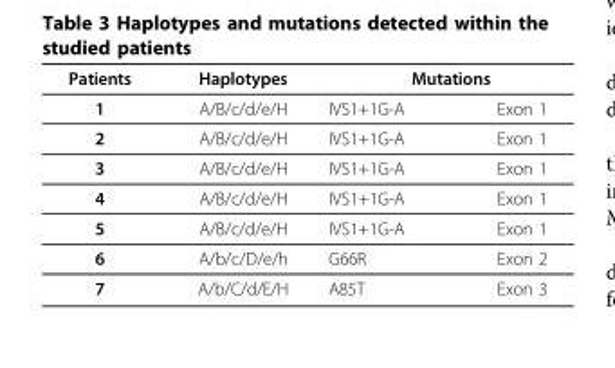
<table><thead><tr><td rowspan="2">Patients 1</td><td rowspan="2">Haplotypes A/B/c/d/e/H</td><td colspan="2">Mutations</td></tr><tr><td>IVS1+1G-A</td><td>Exon 1</td></tr></thead><tbody><tr><td>2</td><td>A/B/c/d/e/H</td><td>IVS1+1G-A</td><td>Exon 1</td></tr><tr><td>3</td><td>A/B/c/d/e/H</td><td>IVS1+1G-A</td><td>Exon 1</td></tr><tr><td>4</td><td>A/B/c/d/e/H</td><td>IVS1+1G-A</td><td>Exon 1</td></tr><tr><td>5</td><td>A/B/c/d/e/H</td><td>IVS1+1G-A</td><td>Exon 1</td></tr><tr><td>6</td><td>A/b/c/D/e/h</td><td>G66R</td><td>Exon 2</td></tr><tr><td>7</td><td>A/b/C/d/E/H</td><td>A85T</td><td>Exon 3</td></tr></tbody></table>